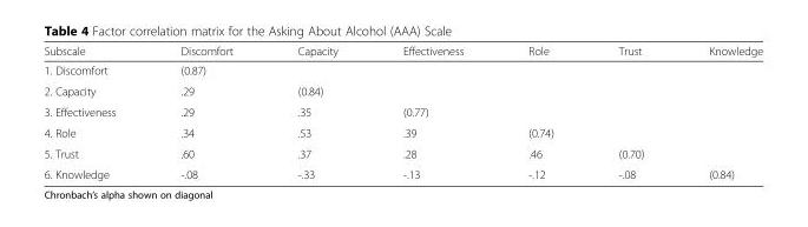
<table><thead><tr><td>Subscale</td><td>Discomfort</td><td>Capacity</td><td>Effectiveness</td><td>Role</td><td>Trust</td><td>Knowledge</td></tr></thead><tbody><tr><td>1. Discomfort</td><td>(0.87)</td><td></td><td></td><td></td><td></td><td></td></tr><tr><td>2. Capacity</td><td>.29</td><td>(0.84)</td><td></td><td></td><td></td><td></td></tr><tr><td>3. Effectiveness</td><td>.29</td><td>.35</td><td>(0.77)</td><td></td><td></td><td></td></tr><tr><td>4. Role</td><td>.34</td><td>.53</td><td>.39</td><td>(0.74)</td><td></td><td></td></tr><tr><td>5. Trust</td><td>.60</td><td>.37</td><td>.28</td><td>.46</td><td>(0.70)</td><td></td></tr><tr><td>6. Knowledge</td><td>-.08</td><td>-.33</td><td>-.13</td><td>-.12</td><td>-.08</td><td>(0.84)</td></tr></tbody></table>